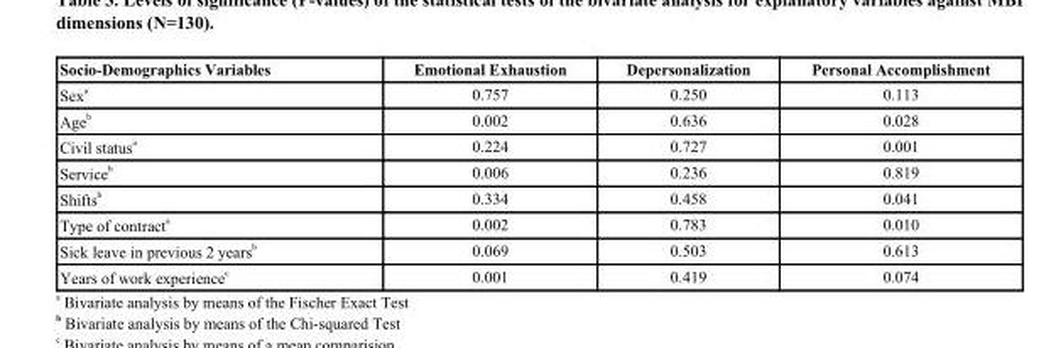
<table><thead><tr><td>Socio-Demographics Variables</td><td>Emotional Exhaustion</td><td>Depersonalization</td><td>Personal Accomplishment</td></tr></thead><tbody><tr><td>Sex <sup>a</sup></td><td>0.757</td><td>0.250</td><td>0.113</td></tr><tr><td>Age <sup>b</sup></td><td>0.002</td><td>0.636</td><td>0.028</td></tr><tr><td>Civil status <sup>a</sup></td><td>0.224</td><td>0.727</td><td>0.001</td></tr><tr><td>Service <sup>b</sup></td><td>0.006</td><td>0.236</td><td>0.819</td></tr><tr><td>Shifts <sup>b</sup></td><td>0.334</td><td>0.458</td><td>0.041</td></tr><tr><td>Type of contract <sup>a</sup></td><td>0.002</td><td>0.783</td><td>0.010</td></tr><tr><td>Sick leave in previous 2 years <sup>b</sup></td><td>0.069</td><td>0.503</td><td>0.613</td></tr><tr><td>Years of work experience <sup>c</sup></td><td>0.001</td><td>0.419</td><td>0.074</td></tr></tbody></table>